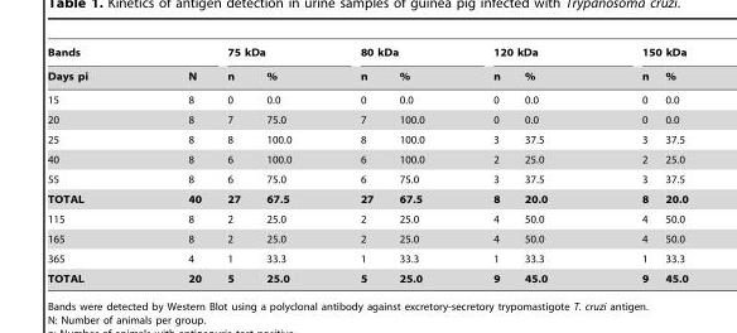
<table><thead><tr><td colspan="2">Bands</td><td colspan="2">75 kDa</td><td colspan="2">80 kDa</td><td colspan="2">120 kDa</td><td colspan="2">150 kDa</td></tr><tr><td>Days pi</td><td>N</td><td>n</td><td>%</td><td>n</td><td>%</td><td>n</td><td>%</td><td>n</td><td>%</td></tr></thead><tbody><tr><td>15</td><td>8</td><td>0</td><td>0.0</td><td>0</td><td>0.0</td><td>0</td><td>0.0</td><td>0</td><td>0.0</td></tr><tr><td>20</td><td>8</td><td>7</td><td>75.0</td><td>7</td><td>100.0</td><td>0</td><td>0.0</td><td>0</td><td>0.0</td></tr><tr><td>25</td><td>8</td><td>8</td><td>100.0</td><td>8</td><td>100.0</td><td>3</td><td>37.5</td><td>3</td><td>37.5</td></tr><tr><td>40</td><td>8</td><td>6</td><td>100.0</td><td>6</td><td>100.0</td><td>2</td><td>25.0</td><td>2</td><td>25.0</td></tr><tr><td>55</td><td>8</td><td>6</td><td>75.0</td><td>6</td><td>75.0</td><td>3</td><td>37.5</td><td>3</td><td>37.5</td></tr><tr><td>TOTAL</td><td>40</td><td>27</td><td>67.5</td><td>27</td><td>67.5</td><td>8</td><td>20.0</td><td>8</td><td>20.0</td></tr><tr><td>115</td><td>8</td><td>2</td><td>25.0</td><td>2</td><td>25.0</td><td>4</td><td>50.0</td><td>4</td><td>50.0</td></tr><tr><td>165</td><td>8</td><td>2</td><td>25.0</td><td>2</td><td>25.0</td><td>4</td><td>50.0</td><td>4</td><td>50.0</td></tr><tr><td>365</td><td>4</td><td>1</td><td>33.3</td><td>1</td><td>33.3</td><td>1</td><td>33.3</td><td>1</td><td>33.3</td></tr><tr><td>TOTAL</td><td>20</td><td>5</td><td>25.0</td><td>5</td><td>25.0</td><td>9</td><td>45.0</td><td>9</td><td>45.0</td></tr></tbody></table>